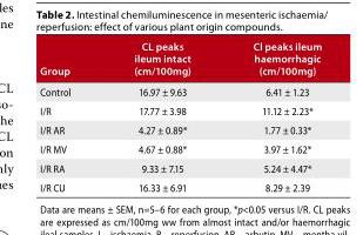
<table><thead><tr><td>Group</td><td>CL peaks ileum intact (cm/100mg)</td><td>Cl peaks ileum haemorrhagic (cm/100mg)</td></tr></thead><tbody><tr><td>Control</td><td>16.97 ± 9.63</td><td>6.41 ± 1.23</td></tr><tr><td>I/R</td><td>17.77 ± 3.98</td><td>11.12 ± 2.23*</td></tr><tr><td>I/R AR</td><td>4.27 ± 0.89*</td><td>1.77 ± 0.33*</td></tr><tr><td>I/R MV</td><td>4.67 ± 0.88*</td><td>3.97 ± 1.62*</td></tr><tr><td>I/R RA</td><td>9.33 ± 7.15</td><td>5.24 ± 4.47*</td></tr><tr><td>I/R CU</td><td>16.33 ± 6.91</td><td>8.29 ± 2.39</td></tr></tbody></table>